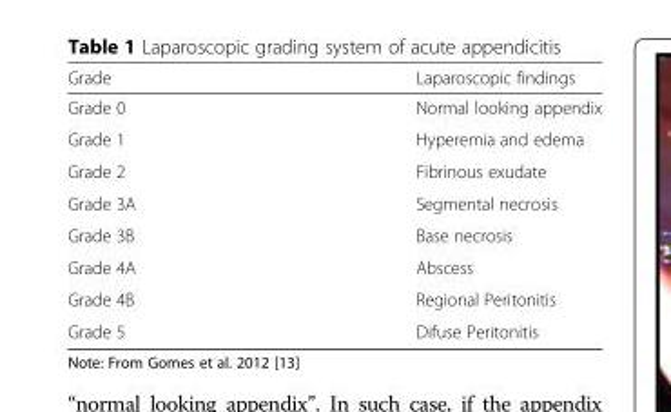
<table><thead><tr><td>Grade</td><td>Laparoscopic findings</td></tr></thead><tbody><tr><td>Grade 0</td><td>Normal looking appendix</td></tr><tr><td>Grade 1</td><td>Hyperemia and edema</td></tr><tr><td>Grade 2</td><td>Fibrinous exudate</td></tr><tr><td>Grade 3A</td><td>Segmental necrosis</td></tr><tr><td>Grade 3B</td><td>Base necrosis</td></tr><tr><td>Grade 4A</td><td>Abscess</td></tr><tr><td>Grade 4B</td><td>Regional Peritonitis</td></tr><tr><td>Grade 5</td><td>Difuse Peritonitis</td></tr></tbody></table>